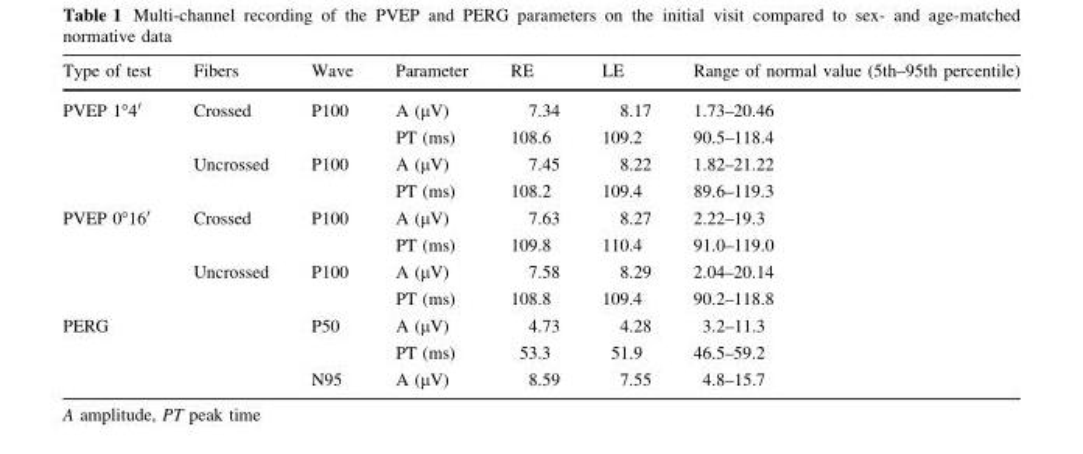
<table><thead><tr><td>Type of test</td><td>Fibers</td><td>Wave</td><td>Parameter</td><td>RE</td><td>LE</td><td>Range of normal value (5th–95th percentile)</td></tr></thead><tbody><tr><td rowspan="4">PVEP 1°4′</td><td rowspan="2">Crossed</td><td rowspan="2">P100</td><td>A (µV)</td><td>7.34</td><td>8.17</td><td>1.73–20.46</td></tr><tr><td>PT (ms)</td><td>108.6</td><td>109.2</td><td>90.5–118.4</td></tr><tr><td rowspan="2">Uncrossed</td><td rowspan="2">P100</td><td>A (µV)</td><td>7.45</td><td>8.22</td><td>1.82–21.22</td></tr><tr><td>PT (ms)</td><td>108.2</td><td>109.4</td><td>89.6–119.3</td></tr><tr><td rowspan="4">PVEP 0°16′</td><td rowspan="2">Crossed</td><td rowspan="2">P100</td><td>A (µV)</td><td>7.63</td><td>8.27</td><td>2.22–19.3</td></tr><tr><td>PT (ms)</td><td>109.8</td><td>110.4</td><td>91.0–119.0</td></tr><tr><td rowspan="2">Uncrossed</td><td rowspan="2">P100</td><td>A (µV)</td><td>7.58</td><td>8.29</td><td>2.04–20.14</td></tr><tr><td>PT (ms)</td><td>108.8</td><td>109.4</td><td>90.2–118.8</td></tr><tr><td rowspan="3" colspan="2">PERG</td><td rowspan="2">P50</td><td>A (µV)</td><td>4.73</td><td>4.28</td><td>3.2–11.3</td></tr><tr><td>PT (ms)</td><td>53.3</td><td>51.9</td><td>46.5–59.2</td></tr><tr><td>N95</td><td>A (µV)</td><td>8.59</td><td>7.55</td><td>4.8–15.7</td></tr></tbody></table>